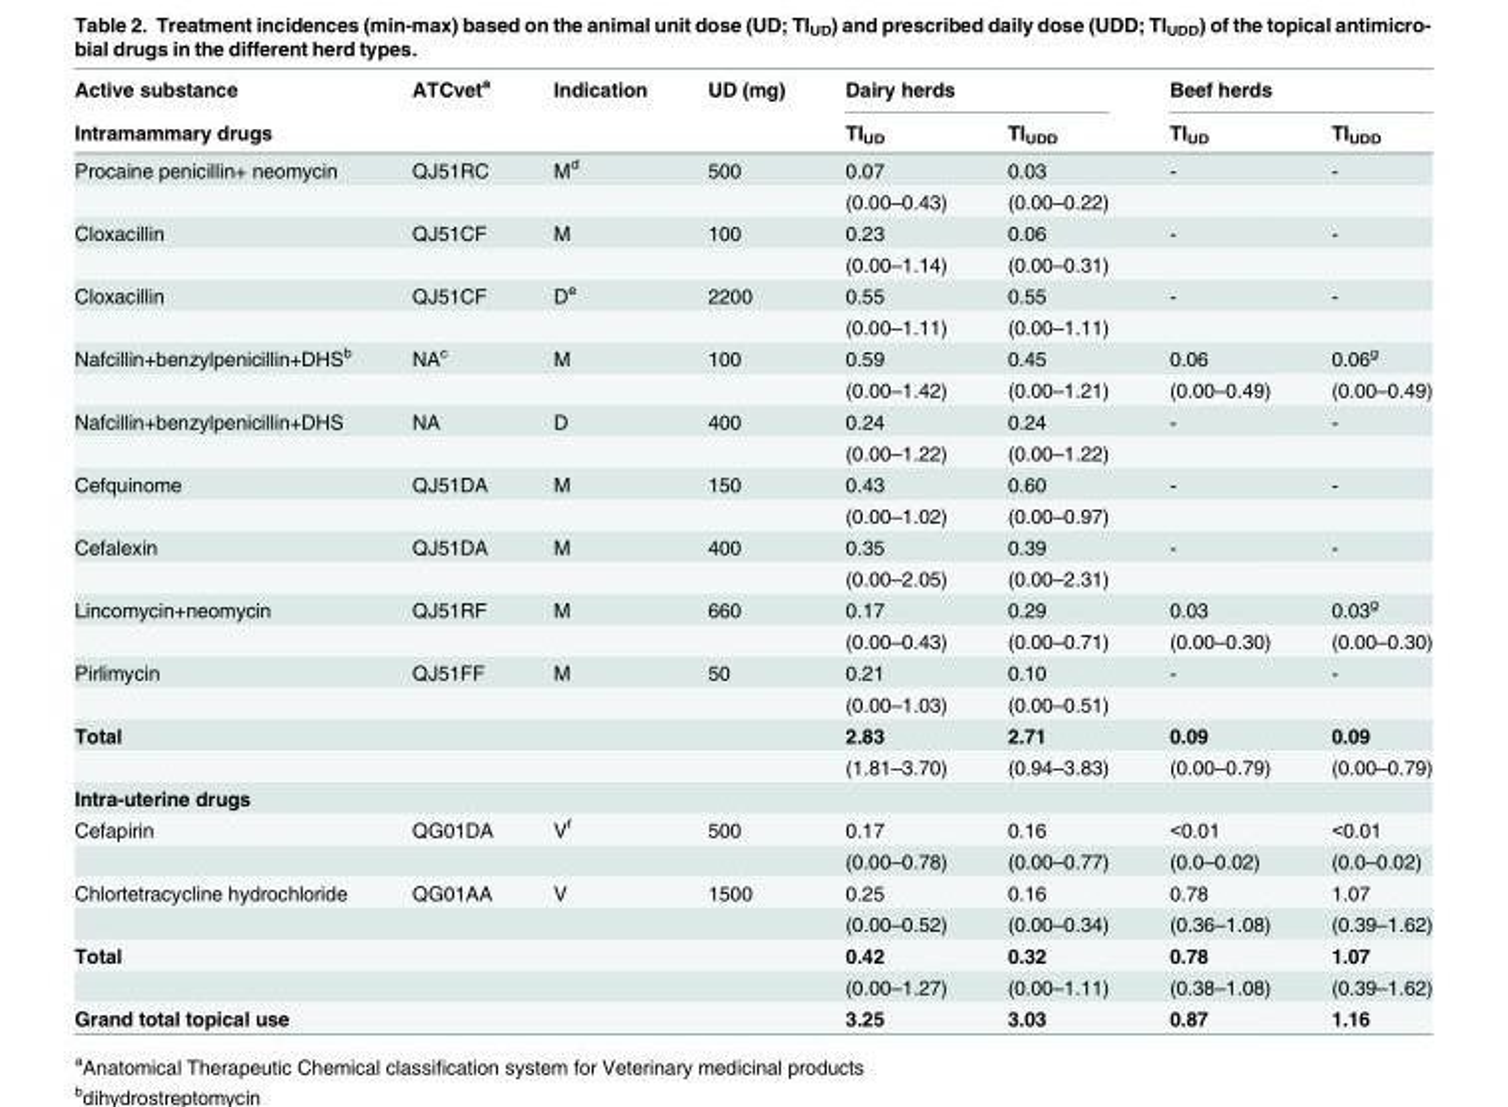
<table><thead><tr><td rowspan="2">Active substance Intramammary drugs</td><td rowspan="2">ATCvet<sup>a</sup></td><td rowspan="2">Indication</td><td rowspan="2">UD (mg)</td><td colspan="2">Dairy herds</td><td colspan="2">Beef herds</td></tr><tr><td>TI<sub>UD</sub></td><td>TI<sub>UDD</sub></td><td>TI<sub>UD</sub></td><td>TI<sub>UDD</sub></td></tr></thead><tbody><tr><td rowspan="2">Procaine penicillin+ neomycin</td><td>QJ51RC</td><td>M<sup>d</sup></td><td>500</td><td>0.07</td><td>0.03</td><td>-</td><td>-</td></tr><tr><td></td><td></td><td></td><td>(0.00–0.43)</td><td>(0.00–0.22)</td><td></td><td></td></tr><tr><td rowspan="2">Cloxacillin</td><td>QJ51CF</td><td>M</td><td>100</td><td>0.23</td><td>0.06</td><td>-</td><td>-</td></tr><tr><td></td><td></td><td></td><td>(0.00–1.14)</td><td>(0.00–0.31)</td><td></td><td></td></tr><tr><td rowspan="2">Cloxacillin</td><td>QJ51CF</td><td>D<sup>e</sup></td><td>2200</td><td>0.55</td><td>0.55</td><td>-</td><td>-</td></tr><tr><td></td><td></td><td></td><td>(0.00–1.11)</td><td>(0.00–1.11)</td><td></td><td></td></tr><tr><td rowspan="2">Nafcillin+benzylpenicillin+DHS<sup>b</sup></td><td>NA<sup>c</sup></td><td>M</td><td>100</td><td>0.59</td><td>0.45</td><td>0.06</td><td>0.06<sup>g</sup></td></tr><tr><td></td><td></td><td></td><td>(0.00–1.42)</td><td>(0.00–1.21)</td><td>(0.00–0.49)</td><td>(0.00–0.49)</td></tr><tr><td rowspan="2">Nafcillin+benzylpenicillin+DHS</td><td>NA</td><td>D</td><td>400</td><td>0.24</td><td>0.24</td><td>-</td><td>-</td></tr><tr><td></td><td></td><td></td><td>(0.00–1.22)</td><td>(0.00–1.22)</td><td></td><td></td></tr><tr><td rowspan="2">Cefquinome</td><td>QJ51DA</td><td>M</td><td>150</td><td>0.43</td><td>0.60</td><td>-</td><td>-</td></tr><tr><td></td><td></td><td></td><td>(0.00–1.02)</td><td>(0.00–0.97)</td><td></td><td></td></tr><tr><td rowspan="2">Cefalexin</td><td>QJ51DA</td><td>M</td><td>400</td><td>0.35</td><td>0.39</td><td>-</td><td>-</td></tr><tr><td></td><td></td><td></td><td>(0.00–2.05)</td><td>(0.00–2.31)</td><td></td><td></td></tr><tr><td rowspan="2">Lincomycin+neomycin</td><td>QJ51RF</td><td>M</td><td>660</td><td>0.17</td><td>0.29</td><td>0.03</td><td>0.03<sup>g</sup></td></tr><tr><td></td><td></td><td></td><td>(0.00–0.43)</td><td>(0.00–0.71)</td><td>(0.00–0.30)</td><td>(0.00–0.30)</td></tr><tr><td rowspan="2">Pirlimycin</td><td>QJ51FF</td><td>M</td><td>50</td><td>0.21</td><td>0.10</td><td>-</td><td>-</td></tr><tr><td></td><td></td><td></td><td>(0.00–1.03)</td><td>(0.00–0.51)</td><td></td><td></td></tr><tr><td rowspan="2">Total</td><td></td><td></td><td></td><td>2.83</td><td>2.71</td><td>0.09</td><td>0.09</td></tr><tr><td></td><td></td><td></td><td>(1.81–3.70)</td><td>(0.94–3.83)</td><td>(0.00–0.79)</td><td>(0.00–0.79)</td></tr><tr><td colspan="8">Intra-uterine drugs</td></tr><tr><td rowspan="2">Cefapirin</td><td>QG01DA</td><td>V<sup>f</sup></td><td>500</td><td>0.17</td><td>0.16</td><td>&lt;0.01</td><td>&lt;0.01</td></tr><tr><td></td><td></td><td></td><td>(0.00–0.78)</td><td>(0.00–0.77)</td><td>(0.0–0.02)</td><td>(0.0–0.02)</td></tr><tr><td rowspan="2">Chlortetracycline hydrochloride</td><td>QG01AA</td><td>V</td><td>1500</td><td>0.25</td><td>0.16</td><td>0.78</td><td>1.07</td></tr><tr><td></td><td></td><td></td><td>(0.00–0.52)</td><td>(0.00–0.34)</td><td>(0.36–1.08)</td><td>(0.39–1.62)</td></tr><tr><td rowspan="2">Total</td><td></td><td></td><td></td><td>0.42</td><td>0.32</td><td>0.78</td><td>1.07</td></tr><tr><td></td><td></td><td></td><td>(0.00–1.27)</td><td>(0.00–1.11)</td><td>(0.38–1.08)</td><td>(0.39–1.62)</td></tr><tr><td>Grand total topical use</td><td></td><td></td><td></td><td>3.25</td><td>3.03</td><td>0.87</td><td>1.16</td></tr></tbody></table>